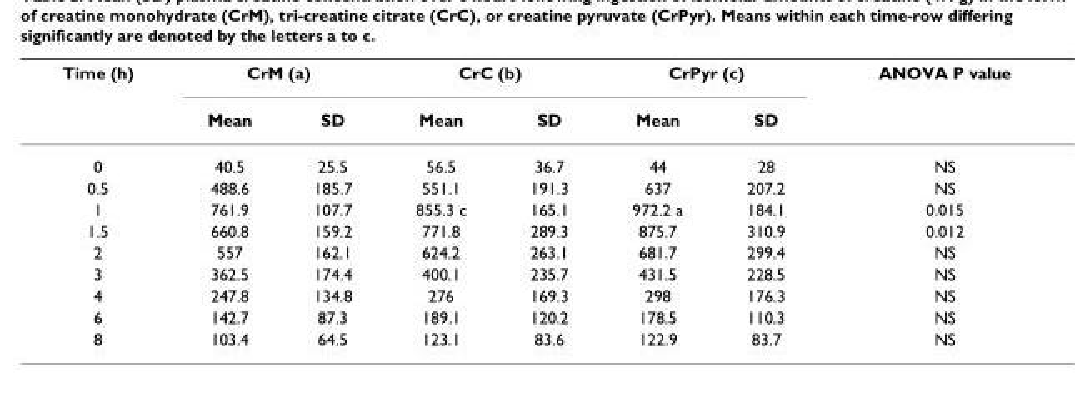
<table><thead><tr><td rowspan="2">Time (h)</td><td colspan="2">CrM (a)</td><td colspan="2">CrC (b)</td><td colspan="2">CrPyr (c)</td><td rowspan="2">ANOVA P value</td></tr><tr><td>Mean</td><td>SD</td><td>Mean</td><td>SD</td><td>Mean</td><td>SD</td></tr></thead><tbody><tr><td>0</td><td>40.5</td><td>25.5</td><td>56.5</td><td>36.7</td><td>44</td><td>28</td><td>NS</td></tr><tr><td>0.5</td><td>488.6</td><td>185.7</td><td>551.1</td><td>191.3</td><td>637</td><td>207.2</td><td>NS</td></tr><tr><td>1</td><td>761.9</td><td>107.7</td><td>855.3 c</td><td>165.1</td><td>972.2 a</td><td>184.1</td><td>0.015</td></tr><tr><td>1.5</td><td>660.8</td><td>159.2</td><td>771.8</td><td>289.3</td><td>875.7</td><td>310.9</td><td>0.012</td></tr><tr><td>2</td><td>557</td><td>162.1</td><td>624.2</td><td>263.1</td><td>681.7</td><td>299.4</td><td>NS</td></tr><tr><td>3</td><td>362.5</td><td>174.4</td><td>400.1</td><td>235.7</td><td>431.5</td><td>228.5</td><td>NS</td></tr><tr><td>4</td><td>247.8</td><td>134.8</td><td>276</td><td>169.3</td><td>298</td><td>176.3</td><td>NS</td></tr><tr><td>6</td><td>142.7</td><td>87.3</td><td>189.1</td><td>120.2</td><td>178.5</td><td>110.3</td><td>NS</td></tr><tr><td>8</td><td>103.4</td><td>64.5</td><td>123.1</td><td>83.6</td><td>122.9</td><td>83.7</td><td>NS</td></tr></tbody></table>